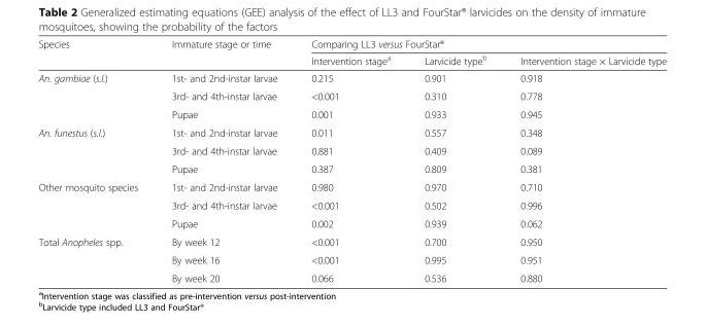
<table><thead><tr><td rowspan="2">Species</td><td rowspan="2">Immature stage or time</td><td colspan="3">Comparing LL3 versus FourStar®</td></tr><tr><td>Intervention stage<sup>a</sup></td><td>Larvicide type<sup>b</sup></td><td>Intervention stage × Larvicide type</td></tr></thead><tbody><tr><td rowspan="3">An. gambiae (s.l.)</td><td>1st- and 2nd-instar larvae</td><td>0.215</td><td>0.901</td><td>0.918</td></tr><tr><td>3rd- and 4th-instar larvae</td><td>&lt;0.001</td><td>0.310</td><td>0.778</td></tr><tr><td>Pupae</td><td>0.001</td><td>0.933</td><td>0.945</td></tr><tr><td rowspan="3">An. funestus (s.l.)</td><td>1st- and 2nd-instar larvae</td><td>0.011</td><td>0.557</td><td>0.348</td></tr><tr><td>3rd- and 4th-instar larvae</td><td>0.881</td><td>0.409</td><td>0.089</td></tr><tr><td>Pupae</td><td>0.387</td><td>0.809</td><td>0.381</td></tr><tr><td rowspan="3">Other mosquito species</td><td>1st- and 2nd-instar larvae</td><td>0.980</td><td>0.970</td><td>0.710</td></tr><tr><td>3rd- and 4th-instar larvae</td><td>&lt;0.001</td><td>0.502</td><td>0.996</td></tr><tr><td>Pupae</td><td>0.002</td><td>0.939</td><td>0.062</td></tr><tr><td rowspan="3">Total Anopheles spp.</td><td>By week 12</td><td>&lt;0.001</td><td>0.700</td><td>0.950</td></tr><tr><td>By week 16</td><td>&lt;0.001</td><td>0.995</td><td>0.951</td></tr><tr><td>By week 20</td><td>0.066</td><td>0.536</td><td>0.880</td></tr></tbody></table>